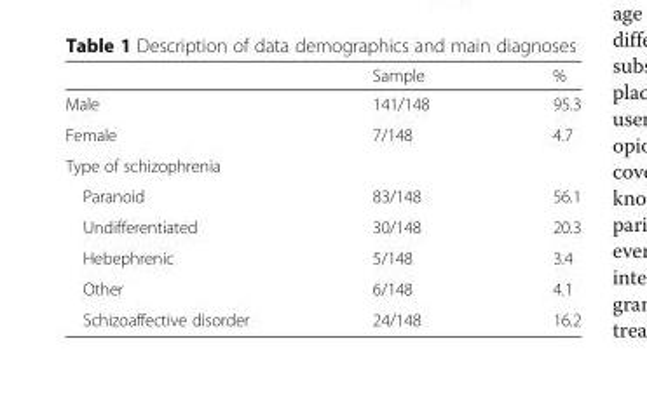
<table><thead><tr><td></td><td>Sample</td><td>%</td></tr></thead><tbody><tr><td>Male</td><td>141/148</td><td>95.3</td></tr><tr><td>Female</td><td>7/148</td><td>4.7</td></tr><tr><td colspan="3">Type of schizophrenia</td></tr><tr><td>Paranoid</td><td>83/148</td><td>56.1</td></tr><tr><td>Undifferentiated</td><td>30/148</td><td>20.3</td></tr><tr><td>Hebephrenic</td><td>5/148</td><td>3.4</td></tr><tr><td>Other</td><td>6/148</td><td>4.1</td></tr><tr><td>Schizoaffective disorder</td><td>24/148</td><td>16.2</td></tr></tbody></table>